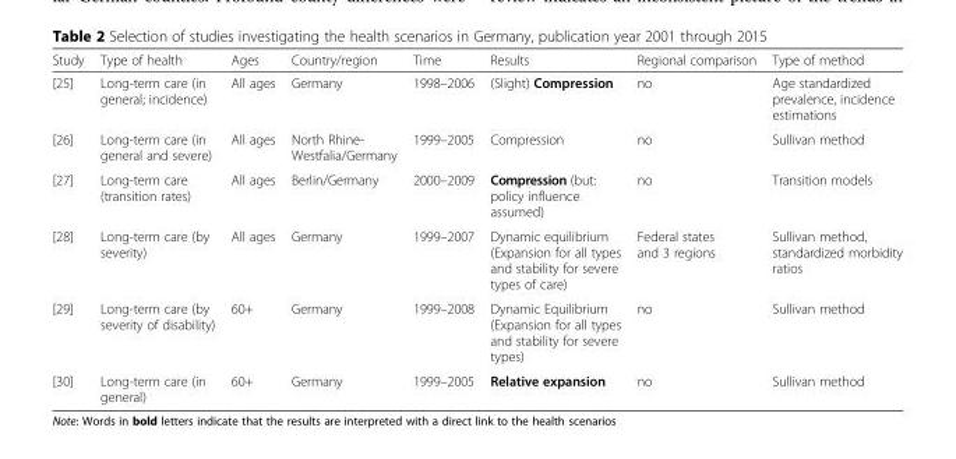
<table><thead><tr><td>Study</td><td>Type of health</td><td>Ages</td><td>Country/region</td><td>Time</td><td>Results</td><td>Regional comparison</td><td>Type of method</td></tr></thead><tbody><tr><td>[25]</td><td>Long-term care (in general; incidence)</td><td>All ages</td><td>Germany</td><td>1998–2006</td><td>(Slight) Compression</td><td>no</td><td>Age standardized prevalence, incidence estimations</td></tr><tr><td>[26]</td><td>Long-term care (in general and severe)</td><td>All ages</td><td>North Rhine- Westfalia/Germany</td><td>1999–2005</td><td>Compression</td><td>no</td><td>Sullivan method</td></tr><tr><td>[27]</td><td>Long-term care (transition rates)</td><td>All ages</td><td>Berlin/Germany</td><td>2000–2009</td><td>Compression (but: policy influence assumed)</td><td>no</td><td>Transition models</td></tr><tr><td>[28]</td><td>Long-term care (by severity)</td><td>All ages</td><td>Germany</td><td>1999–2007</td><td>Dynamic equilibrium (Expansion for all types and stability for severe types of care)</td><td>Federal states and 3 regions</td><td>Sullivan method, standardized morbidity ratios</td></tr><tr><td>[29]</td><td>Long-term care (by severity of disability)</td><td>60+</td><td>Germany</td><td>1999–2008</td><td>Dynamic Equilibrium (Expansion for all types and stability for severe types)</td><td>no</td><td>Sullivan method</td></tr><tr><td>[30]</td><td>Long-term care (in general)</td><td>60+</td><td>Germany</td><td>1999–2005</td><td>Relative expansion</td><td>no</td><td>Sullivan method</td></tr></tbody></table>